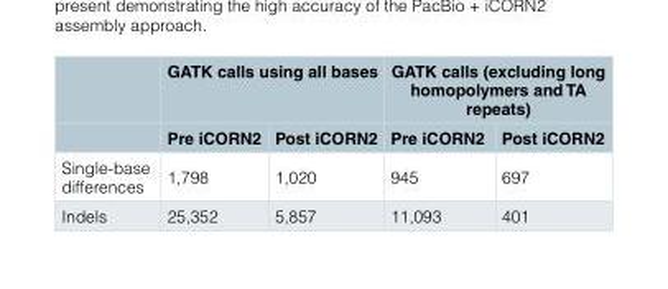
<table><thead><tr><td rowspan="2"></td><td colspan="2">GATK calls using all bases</td><td colspan="2">GATK calls (excluding long homopolymers and TA repeats)</td></tr><tr><td>Pre iCORN2</td><td>Post iCORN2</td><td>Pre iCORN2</td><td>Post iCORN2</td></tr></thead><tbody><tr><td>Single-base differences</td><td>1,798</td><td>1,020</td><td>945</td><td>697</td></tr><tr><td>Indels</td><td>25,352</td><td>5,857</td><td>11,093</td><td>401</td></tr></tbody></table>